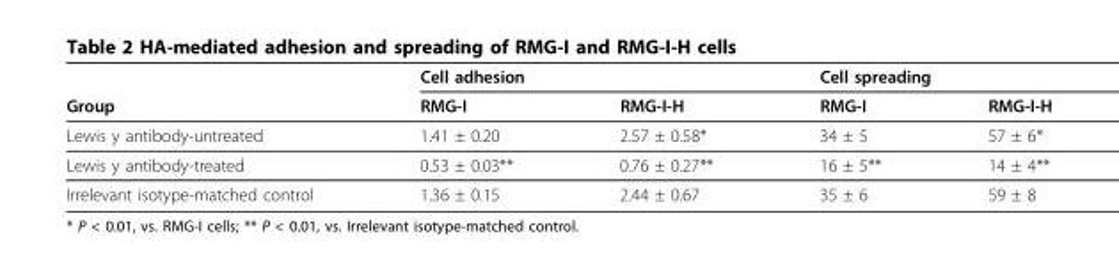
<table><thead><tr><td rowspan="2">Group</td><td colspan="2">Cell adhesion</td><td colspan="2">Cell spreading</td></tr><tr><td>RMG-I</td><td>RMG-I-H</td><td>RMG-I</td><td>RMG-I-H</td></tr></thead><tbody><tr><td>Lewis y antibody-untreated</td><td>1.41 ± 0.20</td><td>2.57 ± 0.58*</td><td>34 ± 5</td><td>57 ± 6*</td></tr><tr><td>Lewis y antibody-treated</td><td>0.53 ± 0.03**</td><td>0.76 ± 0.27**</td><td>16 ± 5**</td><td>14 ± 4**</td></tr><tr><td>Irrelevant isotype-matched control</td><td>1.36 ± 0.15</td><td>2.44 ± 0.67</td><td>35 ± 6</td><td>59 ± 8</td></tr></tbody></table>